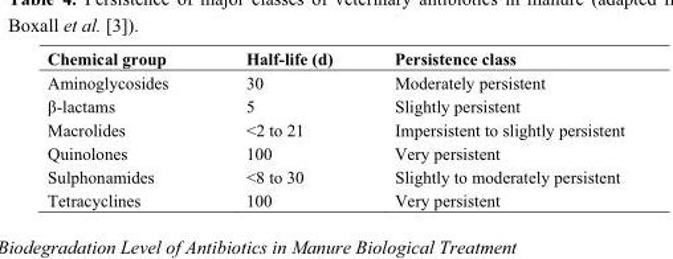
<table><thead><tr><td>Chemical group</td><td>Half-life (d)</td><td>Persistence class</td></tr></thead><tbody><tr><td>Aminoglycosides</td><td>30</td><td>Moderately persistent</td></tr><tr><td>β-lactams</td><td>5</td><td>Slightly persistent</td></tr><tr><td>Macrolides</td><td>&lt;2 to 21</td><td>Impersistent to slightly persistent</td></tr><tr><td>Quinolones</td><td>100</td><td>Very persistent</td></tr><tr><td>Sulphonamides</td><td>&lt;8 to 30</td><td>Slightly to moderately persistent</td></tr><tr><td>Tetracyclines</td><td>100</td><td>Very persistent</td></tr></tbody></table>